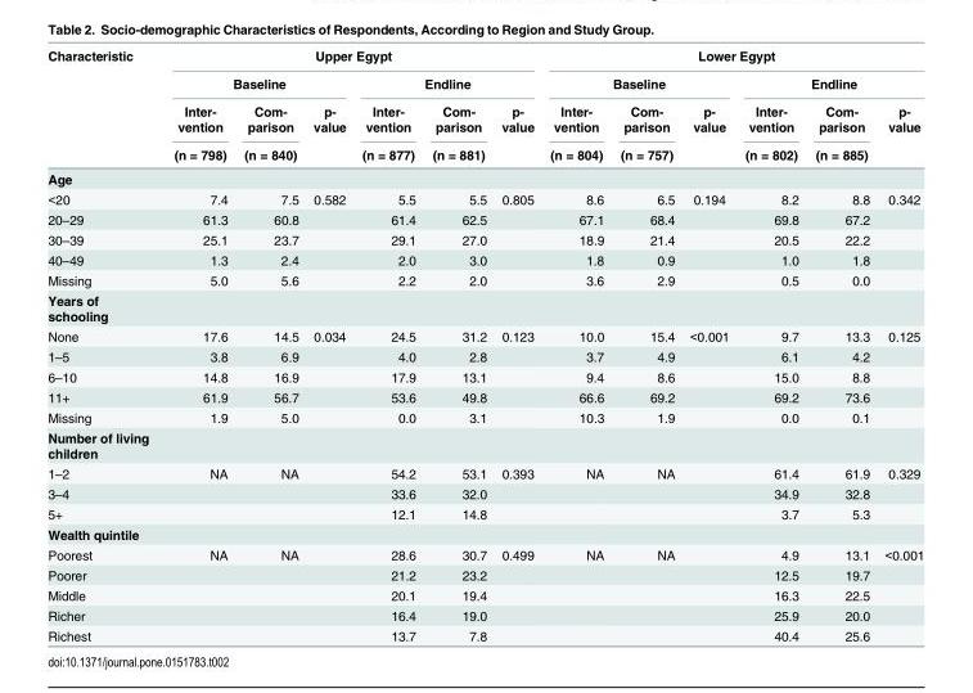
<table><thead><tr><td rowspan="4">Characteristic</td><td colspan="6">Upper Egypt</td><td colspan="6">Lower Egypt</td></tr><tr><td colspan="3">Baseline</td><td colspan="3">Endline</td><td colspan="3">Baseline</td><td colspan="3">Endline</td></tr><tr><td rowspan="2">Inter- vention (n = 798)</td><td rowspan="2">Com- parison (n = 840)</td><td rowspan="2">p- value</td><td rowspan="2">Inter- vention (n = 877)</td><td rowspan="2">Com- parison (n = 881)</td><td rowspan="2">p- value</td><td rowspan="2">Inter- vention (n = 804)</td><td rowspan="2">Com- parison (n = 757)</td><td rowspan="2">p- value</td><td rowspan="2">Inter- vention (n = 802)</td><td rowspan="2">Com- parison (n = 885)</td><td rowspan="2">p- value</td></tr><tr></tr></thead><tbody><tr><td colspan="13">Age</td></tr><tr><td>&lt;20</td><td>7.4</td><td>7.5</td><td>0.582</td><td>5.5</td><td>5.5</td><td>0.805</td><td>8.6</td><td>6.5</td><td>0.194</td><td>8.2</td><td>8.8</td><td>0.342</td></tr><tr><td>20–29</td><td>61.3</td><td>60.8</td><td></td><td>61.4</td><td>62.5</td><td></td><td>67.1</td><td>68.4</td><td></td><td>69.8</td><td>67.2</td><td></td></tr><tr><td>30–39</td><td>25.1</td><td>23.7</td><td></td><td>29.1</td><td>27.0</td><td></td><td>18.9</td><td>21.4</td><td></td><td>20.5</td><td>22.2</td><td></td></tr><tr><td>40–49</td><td>1.3</td><td>2.4</td><td></td><td>2.0</td><td>3.0</td><td></td><td>1.8</td><td>0.9</td><td></td><td>1.0</td><td>1.8</td><td></td></tr><tr><td>Missing</td><td>5.0</td><td>5.6</td><td></td><td>2.2</td><td>2.0</td><td></td><td>3.6</td><td>2.9</td><td></td><td>0.5</td><td>0.0</td><td></td></tr><tr><td colspan="13">Years of schooling</td></tr><tr><td>None</td><td>17.6</td><td>14.5</td><td>0.034</td><td>24.5</td><td>31.2</td><td>0.123</td><td>10.0</td><td>15.4</td><td>&lt;0.001</td><td>9.7</td><td>13.3</td><td>0.125</td></tr><tr><td>1–5</td><td>3.8</td><td>6.9</td><td></td><td>4.0</td><td>2.8</td><td></td><td>3.7</td><td>4.9</td><td></td><td>6.1</td><td>4.2</td><td></td></tr><tr><td>6–10</td><td>14.8</td><td>16.9</td><td></td><td>17.9</td><td>13.1</td><td></td><td>9.4</td><td>8.6</td><td></td><td>15.0</td><td>8.8</td><td></td></tr><tr><td>11+</td><td>61.9</td><td>56.7</td><td></td><td>53.6</td><td>49.8</td><td></td><td>66.6</td><td>69.2</td><td></td><td>69.2</td><td>73.6</td><td></td></tr><tr><td>Missing</td><td>1.9</td><td>5.0</td><td></td><td>0.0</td><td>3.1</td><td></td><td>10.3</td><td>1.9</td><td></td><td>0.0</td><td>0.1</td><td></td></tr><tr><td colspan="13">Number of living children</td></tr><tr><td>1–2</td><td>NA</td><td>NA</td><td></td><td>54.2</td><td>53.1</td><td>0.393</td><td>NA</td><td>NA</td><td></td><td>61.4</td><td>61.9</td><td>0.329</td></tr><tr><td>3–4</td><td></td><td></td><td></td><td>33.6</td><td>32.0</td><td></td><td></td><td></td><td></td><td>34.9</td><td>32.8</td><td></td></tr><tr><td>5+</td><td></td><td></td><td></td><td>12.1</td><td>14.8</td><td></td><td></td><td></td><td></td><td>3.7</td><td>5.3</td><td></td></tr><tr><td colspan="13">Wealth quintile</td></tr><tr><td>Poorest</td><td>NA</td><td>NA</td><td></td><td>28.6</td><td>30.7</td><td>0.499</td><td>NA</td><td>NA</td><td></td><td>4.9</td><td>13.1</td><td>&lt;0.001</td></tr><tr><td>Poorer</td><td></td><td></td><td></td><td>21.2</td><td>23.2</td><td></td><td></td><td></td><td></td><td>12.5</td><td>19.7</td><td></td></tr><tr><td>Middle</td><td></td><td></td><td></td><td>20.1</td><td>19.4</td><td></td><td></td><td></td><td></td><td>16.3</td><td>22.5</td><td></td></tr><tr><td>Richer</td><td></td><td></td><td></td><td>16.4</td><td>19.0</td><td></td><td></td><td></td><td></td><td>25.9</td><td>20.0</td><td></td></tr><tr><td>Richest</td><td></td><td></td><td></td><td>13.7</td><td>7.8</td><td></td><td></td><td></td><td></td><td>40.4</td><td>25.6</td><td></td></tr></tbody></table>